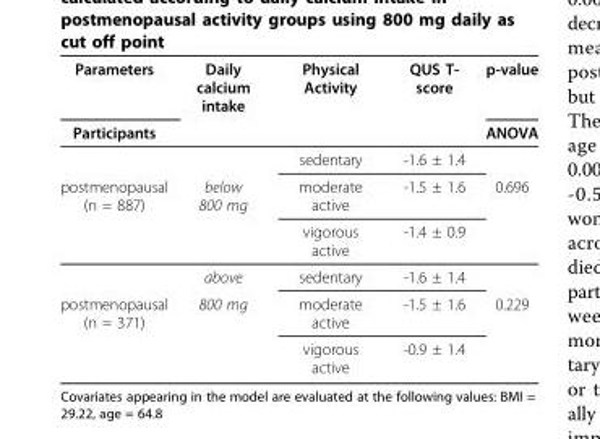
<table><thead><tr><td rowspan="2">Parameters Participants</td><td rowspan="2">Daily calcium intake</td><td rowspan="2">Physical Activity</td><td rowspan="2">QUS T- score</td><td rowspan="2">p-value ANOVA</td></tr><tr></tr></thead><tbody><tr><td></td><td></td><td>sedentary</td><td>-1.6 ± 1.4</td><td></td></tr><tr><td rowspan="3">postmenopausal (n = 887)</td><td>below 800 mg</td><td>moderate active</td><td>-1.5 ± 1.6</td><td>0.696</td></tr><tr><td></td><td>vigorous active</td><td>-1.4 ± 0.9</td><td></td></tr><tr><td>above</td><td>sedentary</td><td>-1.6 ± 1.4</td><td></td></tr><tr><td rowspan="2">postmenopausal (n = 371)</td><td>800 mg</td><td>moderate active</td><td>-1.5 ± 1.6</td><td>0.229</td></tr><tr><td></td><td>vigorous active</td><td>-0.9 ± 1.4</td><td></td></tr></tbody></table>